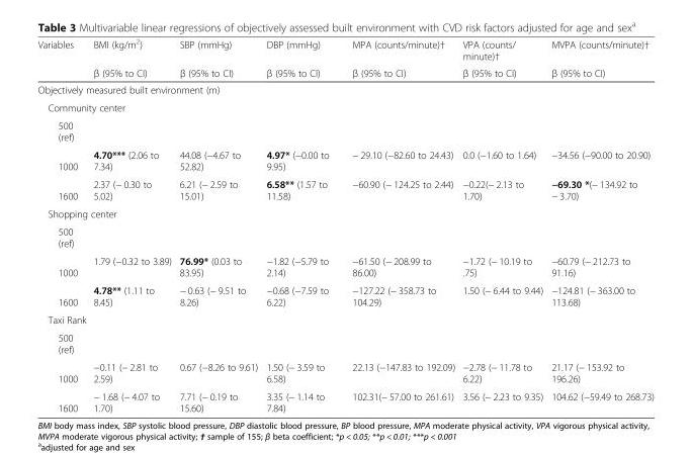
<table><thead><tr><td rowspan="2">Variables</td><td rowspan="2">BMI (kg/m<sup>2</sup>) β (95% to CI)</td><td rowspan="2">SBP (mmHg) β (95% to CI)</td><td rowspan="2">DBP (mmHg) β (95% to CI)</td><td rowspan="2">MPA (counts/minute)† β (95% to CI)</td><td rowspan="2">VPA (counts/ minute)† β (95% to CI)</td><td rowspan="2">MVPA (counts/minute)† β (95% to CI)</td></tr><tr></tr></thead><tbody><tr><td colspan="7">Objectively measured built environment (m)</td></tr><tr><td colspan="7">Community center</td></tr><tr><td colspan="7">500 (ref)</td></tr><tr><td>1000</td><td>4.70*** (2.06 to 7.34)</td><td>44.08 (−4.67 to 52.82)</td><td>4.97* (−0.00 to 9.95)</td><td>− 29.10 (−82.60 to 24.43)</td><td>0.0 (−1.60 to 1.64)</td><td>−34.56 (−90.00 to 20.90)</td></tr><tr><td>1600</td><td>2.37 (− 0.30 to 5.02)</td><td>6.21 (− 2.59 to 15.01)</td><td>6.58** (1.57 to 11.58)</td><td>−60.90 (− 124.25 to 2.44)</td><td>−0.22(− 2.13 to 1.70)</td><td>−69.30 *(− 134.92 to − 3.70)</td></tr><tr><td colspan="7">Shopping center</td></tr><tr><td colspan="7">500 (ref)</td></tr><tr><td>1000</td><td>1.79 (−0.32 to 3.89)</td><td>76.99* (0.03 to 83.95)</td><td>−1.82 (−5.79 to 2.14)</td><td>−61.50 (− 208.99 to 86.00)</td><td>−1.72 (− 10.19 to .75)</td><td>−60.79 (− 212.73 to 91.16)</td></tr><tr><td>1600</td><td>4.78** (1.11 to 8.45)</td><td>− 0.63 (− 9.51 to 8.26)</td><td>−0.68 (−7.59 to 6.22)</td><td>−127.22 (− 358.73 to 104.29)</td><td>1.50 (− 6.44 to 9.44)</td><td>−124.81 (− 363.00 to 113.68)</td></tr><tr><td colspan="7">Taxi Rank</td></tr><tr><td colspan="7">500 (ref)</td></tr><tr><td>1000</td><td>−0.11 (− 2.81 to 2.59)</td><td>0.67 (−8.26 to 9.61)</td><td>1.50 (− 3.59 to 6.58)</td><td>22.13 (−147.83 to 192.09)</td><td>−2.78 (− 11.78 to 6.22)</td><td>21.17 (− 153.92 to 196.26)</td></tr><tr><td>1600</td><td>− 1.68 (− 4.07 to 1.70)</td><td>7.71 (− 0.19 to 15.60)</td><td>3.35 (− 1.14 to 7.84)</td><td>102.31(− 57.00 to 261.61)</td><td>3.56 (− 2.23 to 9.35)</td><td>104.62 (−59.49 to 268.73)</td></tr></tbody></table>